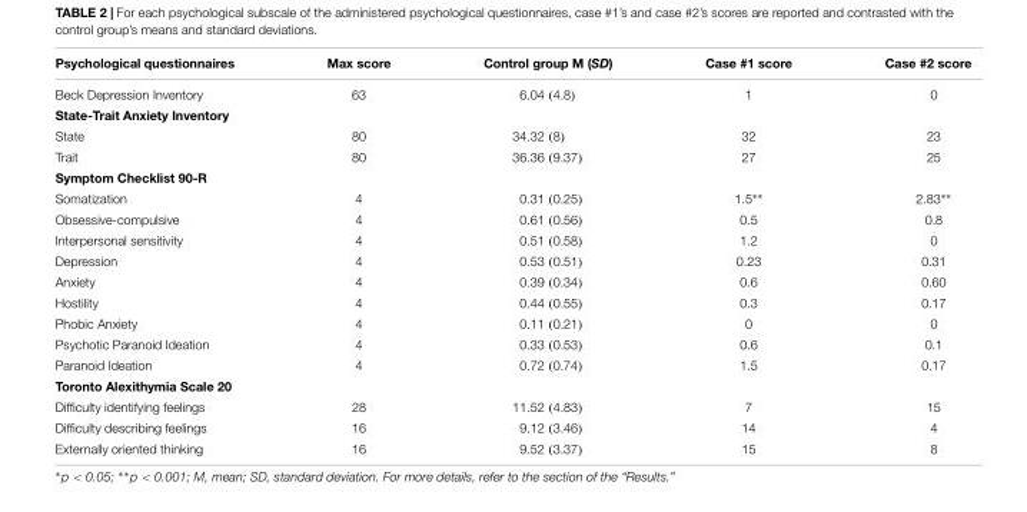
<table><thead><tr><td>Psychological questionnaires</td><td>Max score</td><td>Control group M (SD)</td><td>Case #1 score</td><td>Case #2 score</td></tr></thead><tbody><tr><td>Beck Depression Inventory</td><td>63</td><td>6.04 (4.8)</td><td>1</td><td>0</td></tr><tr><td colspan="5">State-Trait Anxiety Inventory</td></tr><tr><td>State</td><td>80</td><td>34.32 (8)</td><td>32</td><td>23</td></tr><tr><td>Trait</td><td>80</td><td>36.36 (9.37)</td><td>27</td><td>25</td></tr><tr><td colspan="5">Symptom Checklist 90-R</td></tr><tr><td>Somatization</td><td>4</td><td>0.31 (0.25)</td><td>1.5∗∗</td><td>2.83∗∗</td></tr><tr><td>Obsessive-compulsive</td><td>4</td><td>0.61 (0.56)</td><td>0.5</td><td>0.8</td></tr><tr><td>Interpersonal sensitivity</td><td>4</td><td>0.51 (0.58)</td><td>1.2</td><td>0</td></tr><tr><td>Depression</td><td>4</td><td>0.53 (0.51)</td><td>0.23</td><td>0.31</td></tr><tr><td>Anxiety</td><td>4</td><td>0.39 (0.34)</td><td>0.6</td><td>0.60</td></tr><tr><td>Hostility</td><td>4</td><td>0.44 (0.55)</td><td>0.3</td><td>0.17</td></tr><tr><td>Phobic Anxiety</td><td>4</td><td>0.11 (0.21)</td><td>0</td><td>0</td></tr><tr><td>Psychotic Paranoid Ideation</td><td>4</td><td>0.33 (0.53)</td><td>0.6</td><td>0.1</td></tr><tr><td>Paranoid Ideation</td><td>4</td><td>0.72 (0.74)</td><td>1.5</td><td>0.17</td></tr><tr><td colspan="5">Toronto Alexithymia Scale 20</td></tr><tr><td>Difficulty identifying feelings</td><td>28</td><td>11.52 (4.83)</td><td>7</td><td>15</td></tr><tr><td>Difficulty describing feelings</td><td>16</td><td>9.12 (3.46)</td><td>14</td><td>4</td></tr><tr><td>Externally oriented thinking</td><td>16</td><td>9.52 (3.37)</td><td>15</td><td>8</td></tr></tbody></table>